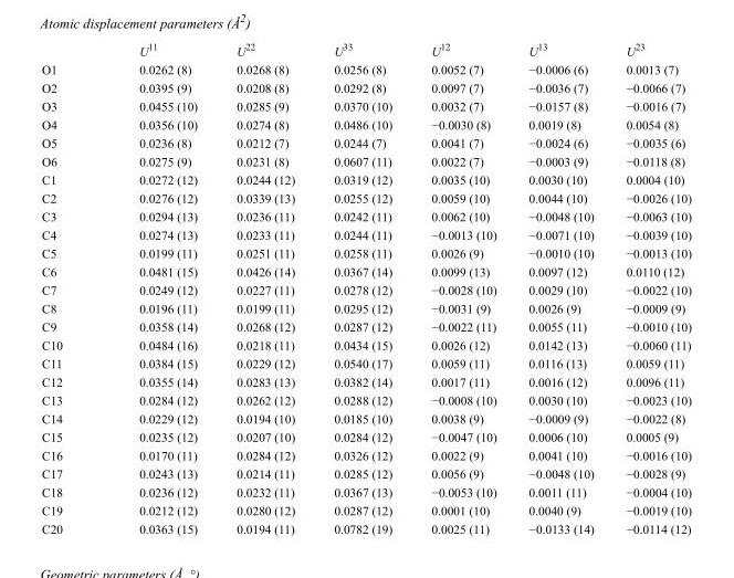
<table><thead><tr><td></td><td>U<sup>11</sup></td><td>U<sup>22</sup></td><td>U<sup>33</sup></td><td>U<sup>12</sup></td><td>U<sup>13</sup></td><td>U<sup>23</sup></td></tr></thead><tbody><tr><td>O1</td><td>0.0262 (8)</td><td>0.0268 (8)</td><td>0.0256 (8)</td><td>0.0052 (7)</td><td>−0.0006 (6)</td><td>0.0013 (7)</td></tr><tr><td>O2</td><td>0.0395 (9)</td><td>0.0208 (8)</td><td>0.0292 (8)</td><td>0.0097 (7)</td><td>−0.0036 (7)</td><td>−0.0066 (7)</td></tr><tr><td>O3</td><td>0.0455 (10)</td><td>0.0285 (9)</td><td>0.0370 (10)</td><td>0.0032 (7)</td><td>−0.0157 (8)</td><td>−0.0016 (7)</td></tr><tr><td>O4</td><td>0.0356 (10)</td><td>0.0274 (8)</td><td>0.0486 (10)</td><td>−0.0030 (8)</td><td>0.0019 (8)</td><td>0.0054 (8)</td></tr><tr><td>O5</td><td>0.0236 (8)</td><td>0.0212 (7)</td><td>0.0244 (7)</td><td>0.0041 (7)</td><td>−0.0024 (6)</td><td>−0.0035 (6)</td></tr><tr><td>O6</td><td>0.0275 (9)</td><td>0.0231 (8)</td><td>0.0607 (11)</td><td>0.0022 (7)</td><td>−0.0003 (9)</td><td>−0.0118 (8)</td></tr><tr><td>C1</td><td>0.0272 (12)</td><td>0.0244 (12)</td><td>0.0319 (12)</td><td>0.0035 (10)</td><td>0.0030 (10)</td><td>0.0004 (10)</td></tr><tr><td>C2</td><td>0.0276 (12)</td><td>0.0339 (13)</td><td>0.0255 (12)</td><td>0.0059 (10)</td><td>0.0044 (10)</td><td>−0.0026 (10)</td></tr><tr><td>C3</td><td>0.0294 (13)</td><td>0.0236 (11)</td><td>0.0242 (11)</td><td>0.0062 (10)</td><td>−0.0048 (10)</td><td>−0.0063 (10)</td></tr><tr><td>C4</td><td>0.0274 (13)</td><td>0.0233 (11)</td><td>0.0244 (11)</td><td>−0.0013 (10)</td><td>−0.0071 (10)</td><td>−0.0039 (10)</td></tr><tr><td>C5</td><td>0.0199 (11)</td><td>0.0251 (11)</td><td>0.0258 (11)</td><td>0.0026 (9)</td><td>−0.0010 (10)</td><td>−0.0013 (10)</td></tr><tr><td>C6</td><td>0.0481 (15)</td><td>0.0426 (14)</td><td>0.0367 (14)</td><td>0.0099 (13)</td><td>0.0097 (12)</td><td>0.0110 (12)</td></tr><tr><td>C7</td><td>0.0249 (12)</td><td>0.0227 (11)</td><td>0.0278 (12)</td><td>−0.0028 (10)</td><td>0.0029 (10)</td><td>−0.0022 (10)</td></tr><tr><td>C8</td><td>0.0196 (11)</td><td>0.0199 (11)</td><td>0.0295 (12)</td><td>−0.0031 (9)</td><td>0.0026 (9)</td><td>−0.0009 (9)</td></tr><tr><td>C9</td><td>0.0358 (14)</td><td>0.0268 (12)</td><td>0.0287 (12)</td><td>−0.0022 (11)</td><td>0.0055 (11)</td><td>−0.0010 (10)</td></tr><tr><td>C10</td><td>0.0484 (16)</td><td>0.0218 (11)</td><td>0.0434 (15)</td><td>0.0026 (12)</td><td>0.0142 (13)</td><td>−0.0060 (11)</td></tr><tr><td>C11</td><td>0.0384 (15)</td><td>0.0229 (12)</td><td>0.0540 (17)</td><td>0.0059 (11)</td><td>0.0116 (13)</td><td>0.0059 (11)</td></tr><tr><td>C12</td><td>0.0355 (14)</td><td>0.0283 (13)</td><td>0.0382 (14)</td><td>0.0017 (11)</td><td>0.0016 (12)</td><td>0.0096 (11)</td></tr><tr><td>C13</td><td>0.0284 (12)</td><td>0.0262 (12)</td><td>0.0288 (12)</td><td>−0.0008 (10)</td><td>0.0030 (10)</td><td>−0.0023 (10)</td></tr><tr><td>C14</td><td>0.0229 (12)</td><td>0.0194 (10)</td><td>0.0185 (10)</td><td>0.0038 (9)</td><td>−0.0009 (9)</td><td>−0.0022 (8)</td></tr><tr><td>C15</td><td>0.0235 (12)</td><td>0.0207 (10)</td><td>0.0284 (12)</td><td>−0.0047 (10)</td><td>0.0006 (10)</td><td>0.0005 (9)</td></tr><tr><td>C16</td><td>0.0170 (11)</td><td>0.0284 (12)</td><td>0.0326 (12)</td><td>0.0022 (9)</td><td>0.0041 (10)</td><td>−0.0016 (10)</td></tr><tr><td>C17</td><td>0.0243 (13)</td><td>0.0214 (11)</td><td>0.0285 (12)</td><td>0.0056 (9)</td><td>−0.0048 (10)</td><td>−0.0028 (9)</td></tr><tr><td>C18</td><td>0.0236 (12)</td><td>0.0232 (11)</td><td>0.0367 (13)</td><td>−0.0053 (10)</td><td>0.0011 (11)</td><td>−0.0004 (10)</td></tr><tr><td>C19</td><td>0.0212 (12)</td><td>0.0280 (12)</td><td>0.0287 (12)</td><td>0.0001 (10)</td><td>0.0040 (9)</td><td>−0.0019 (10)</td></tr><tr><td>C20</td><td>0.0363 (15)</td><td>0.0194 (11)</td><td>0.0782 (19)</td><td>0.0025 (11)</td><td>−0.0133 (14)</td><td>−0.0114 (12)</td></tr></tbody></table>